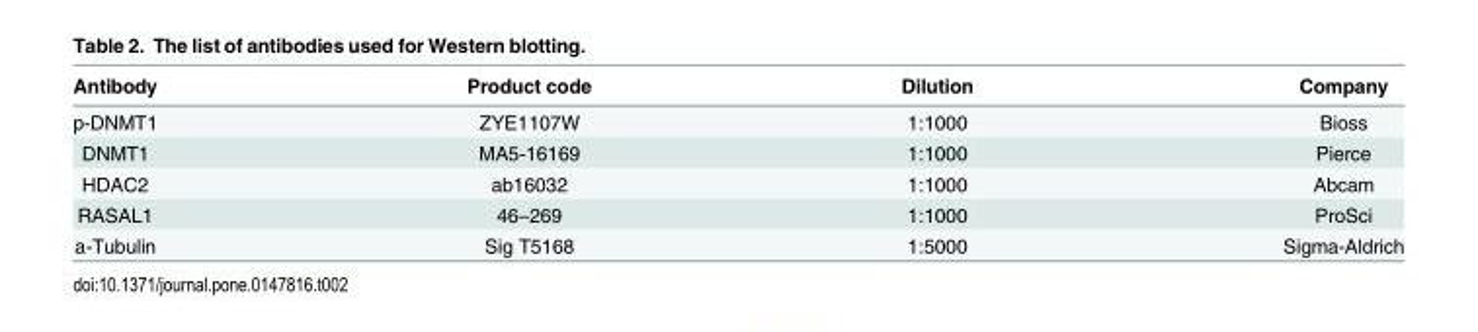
<table><thead><tr><td>Antibody</td><td>Product code</td><td>Dilution</td><td>Company</td></tr></thead><tbody><tr><td>p-DNMT1</td><td>ZYE1107W</td><td>1:1000</td><td>Bioss</td></tr><tr><td>DNMT1</td><td>MA5-16169</td><td>1:1000</td><td>Pierce</td></tr><tr><td>HDAC2</td><td>ab16032</td><td>1:1000</td><td>Abcam</td></tr><tr><td>RASAL1</td><td>46–269</td><td>1:1000</td><td>ProSci</td></tr><tr><td>a-Tubulin</td><td>Sig T5168</td><td>1:5000</td><td>Sigma-Aldrich</td></tr></tbody></table>